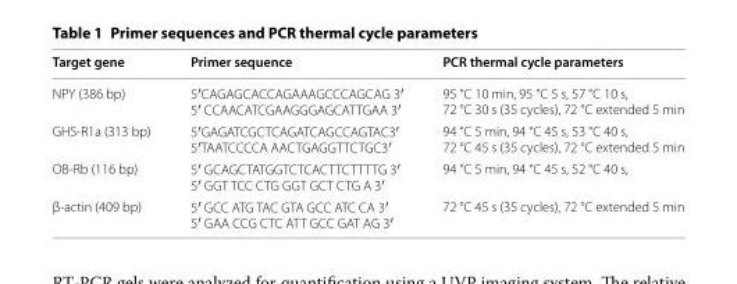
<table><thead><tr><td>Target gene</td><td>Primer sequence</td><td>PCR thermal cycle parameters</td></tr></thead><tbody><tr><td>NPY (386 bp)</td><td>5′CAGAGCACCAGAAAGCCCAGCAG 3′ 5′ CCAACATCGAAGGGAGCATTGAA 3′</td><td>95 °C 10 min, 95 °C 5 s, 57 °C 10 s, 72 °C 30 s (35 cycles), 72 °C extended 5 min</td></tr><tr><td>GHS‑R1a (313 bp)</td><td>5′GAGATCGCTCAGATCAGCCAGTAC3′ 5′TAATCCCCA AACTGAGGTTCTGC3′</td><td>94 °C 5 min, 94 °C 45 s, 53 °C 40 s, 72 °C 45 s (35 cycles), 72 °C extended 5 min</td></tr><tr><td>OB‑Rb (116 bp)</td><td>5′ GCAGCTATGGTCTCACTTCTTTTG 3′ 5′ GGT TCC CTG GGT GCT CTG A 3′</td><td>94 °C 5 min, 94 °C 45 s, 52 °C 40 s,</td></tr><tr><td>β‑actin (409 bp)</td><td>5′ GCC ATG TAC GTA GCC ATC CA 3′ 5′ GAA CCG CTC ATT GCC GAT AG 3′</td><td>72 °C 45 s (35 cycles), 72 °C extended 5 min</td></tr></tbody></table>